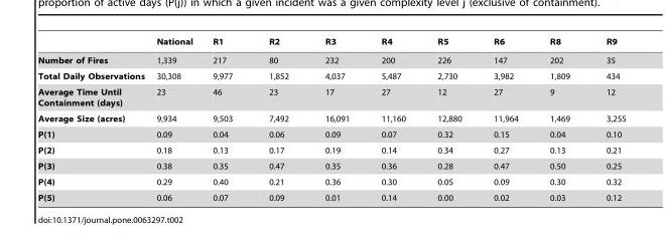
<table><thead><tr><td></td><td>National</td><td>R1</td><td>R2</td><td>R3</td><td>R4</td><td>R5</td><td>R6</td><td>R8</td><td>R9</td></tr></thead><tbody><tr><td>Number of Fires</td><td>1,339</td><td>217</td><td>80</td><td>232</td><td>200</td><td>226</td><td>147</td><td>202</td><td>35</td></tr><tr><td>Total Daily Observations</td><td>30,308</td><td>9,977</td><td>1,852</td><td>4,037</td><td>5,487</td><td>2,730</td><td>3,982</td><td>1,809</td><td>434</td></tr><tr><td>Average Time Until Containment (days)</td><td>23</td><td>46</td><td>23</td><td>17</td><td>27</td><td>12</td><td>27</td><td>9</td><td>12</td></tr><tr><td>Average Size (acres)</td><td>9,934</td><td>9,503</td><td>7,492</td><td>16,091</td><td>11,160</td><td>12,880</td><td>11,964</td><td>1,469</td><td>3,255</td></tr><tr><td>P(1)</td><td>0.09</td><td>0.04</td><td>0.06</td><td>0.09</td><td>0.07</td><td>0.32</td><td>0.15</td><td>0.04</td><td>0.10</td></tr><tr><td>P(2)</td><td>0.18</td><td>0.13</td><td>0.17</td><td>0.19</td><td>0.14</td><td>0.34</td><td>0.27</td><td>0.13</td><td>0.21</td></tr><tr><td>P(3)</td><td>0.38</td><td>0.35</td><td>0.47</td><td>0.35</td><td>0.36</td><td>0.28</td><td>0.47</td><td>0.50</td><td>0.25</td></tr><tr><td>P(4)</td><td>0.29</td><td>0.40</td><td>0.21</td><td>0.36</td><td>0.30</td><td>0.05</td><td>0.09</td><td>0.30</td><td>0.32</td></tr><tr><td>P(5)</td><td>0.06</td><td>0.07</td><td>0.09</td><td>0.01</td><td>0.14</td><td>0.00</td><td>0.02</td><td>0.03</td><td>0.12</td></tr></tbody></table>